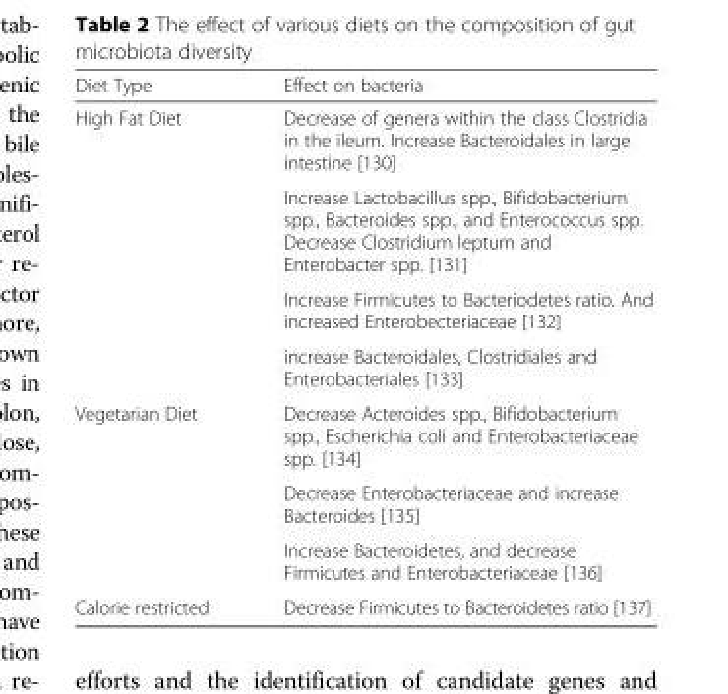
<table><thead><tr><td>Diet Type</td><td>Effect on bacteria</td></tr></thead><tbody><tr><td rowspan="4">High Fat Diet</td><td>Decrease of genera within the class Clostridia in the ileum. Increase Bacteroidales in large intestine [130]</td></tr><tr><td>Increase Lactobacillus spp., Bifidobacterium spp., Bacteroides spp., and Enterococcus spp. Decrease Clostridium leptum and Enterobacter spp. [131]</td></tr><tr><td>Increase Firmicutes to Bacteriodetes ratio. And increased Enterobecteriaceae [132]</td></tr><tr><td>increase Bacteroidales, Clostridiales and Enterobacteriales [133]</td></tr><tr><td rowspan="3">Vegetarian Diet</td><td>Decrease Acteroides spp., Bifidobacterium spp., Escherichia coli and Enterobacteriaceae spp. [134]</td></tr><tr><td>Decrease Enterobacteriaceae and increase Bacteroides [135]</td></tr><tr><td>Increase Bacteroidetes, and decrease Firmicutes and Enterobacteriaceae [136]</td></tr><tr><td>Calorie restricted</td><td>Decrease Firmicutes to Bacteroidetes ratio [137]</td></tr></tbody></table>